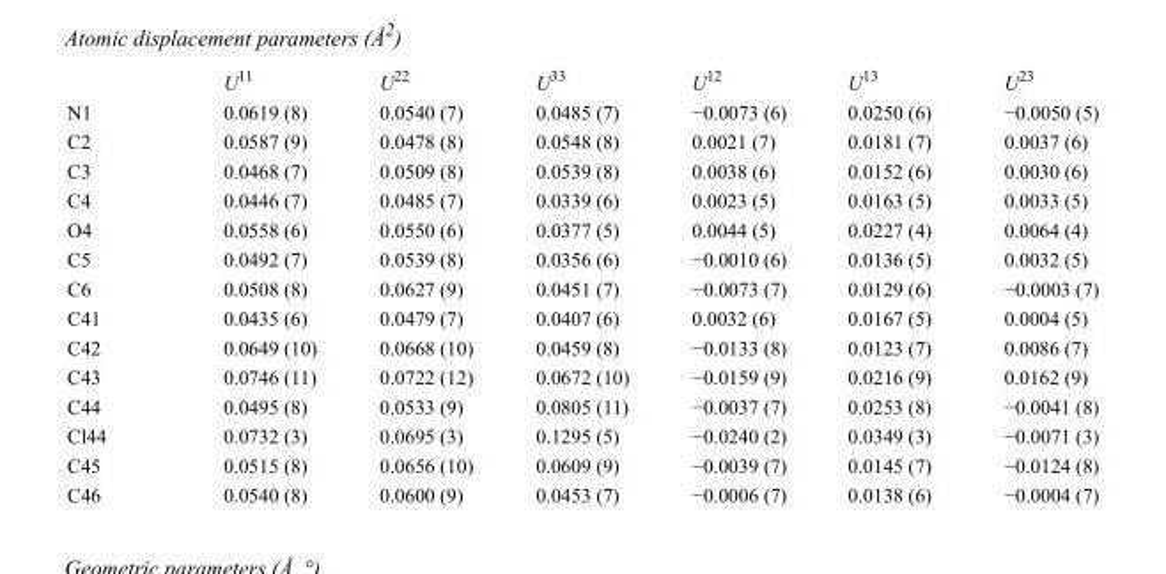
<table><thead><tr><td></td><td>U<sup>11</sup></td><td>U<sup>22</sup></td><td>U<sup>33</sup></td><td>U<sup>12</sup></td><td>U<sup>13</sup></td><td>U<sup>23</sup></td></tr></thead><tbody><tr><td>N1</td><td>0.0619 (8)</td><td>0.0540 (7)</td><td>0.0485 (7)</td><td>−0.0073 (6)</td><td>0.0250 (6)</td><td>−0.0050 (5)</td></tr><tr><td>C2</td><td>0.0587 (9)</td><td>0.0478 (8)</td><td>0.0548 (8)</td><td>0.0021 (7)</td><td>0.0181 (7)</td><td>0.0037 (6)</td></tr><tr><td>C3</td><td>0.0468 (7)</td><td>0.0509 (8)</td><td>0.0539 (8)</td><td>0.0038 (6)</td><td>0.0152 (6)</td><td>0.0030 (6)</td></tr><tr><td>C4</td><td>0.0446 (7)</td><td>0.0485 (7)</td><td>0.0339 (6)</td><td>0.0023 (5)</td><td>0.0163 (5)</td><td>0.0033 (5)</td></tr><tr><td>O4</td><td>0.0558 (6)</td><td>0.0550 (6)</td><td>0.0377 (5)</td><td>0.0044 (5)</td><td>0.0227 (4)</td><td>0.0064 (4)</td></tr><tr><td>C5</td><td>0.0492 (7)</td><td>0.0539 (8)</td><td>0.0356 (6)</td><td>−0.0010 (6)</td><td>0.0136 (5)</td><td>0.0032 (5)</td></tr><tr><td>C6</td><td>0.0508 (8)</td><td>0.0627 (9)</td><td>0.0451 (7)</td><td>−0.0073 (7)</td><td>0.0129 (6)</td><td>−0.0003 (7)</td></tr><tr><td>C41</td><td>0.0435 (6)</td><td>0.0479 (7)</td><td>0.0407 (6)</td><td>0.0032 (6)</td><td>0.0167 (5)</td><td>0.0004 (5)</td></tr><tr><td>C42</td><td>0.0649 (10)</td><td>0.0668 (10)</td><td>0.0459 (8)</td><td>−0.0133 (8)</td><td>0.0123 (7)</td><td>0.0086 (7)</td></tr><tr><td>C43</td><td>0.0746 (11)</td><td>0.0722 (12)</td><td>0.0672 (10)</td><td>−0.0159 (9)</td><td>0.0216 (9)</td><td>0.0162 (9)</td></tr><tr><td>C44</td><td>0.0495 (8)</td><td>0.0533 (9)</td><td>0.0805 (11)</td><td>−0.0037 (7)</td><td>0.0253 (8)</td><td>−0.0041 (8)</td></tr><tr><td>Cl44</td><td>0.0732 (3)</td><td>0.0695 (3)</td><td>0.1295 (5)</td><td>−0.0240 (2)</td><td>0.0349 (3)</td><td>−0.0071 (3)</td></tr><tr><td>C45</td><td>0.0515 (8)</td><td>0.0656 (10)</td><td>0.0609 (9)</td><td>−0.0039 (7)</td><td>0.0145 (7)</td><td>−0.0124 (8)</td></tr><tr><td>C46</td><td>0.0540 (8)</td><td>0.0600 (9)</td><td>0.0453 (7)</td><td>−0.0006 (7)</td><td>0.0138 (6)</td><td>−0.0004 (7)</td></tr></tbody></table>